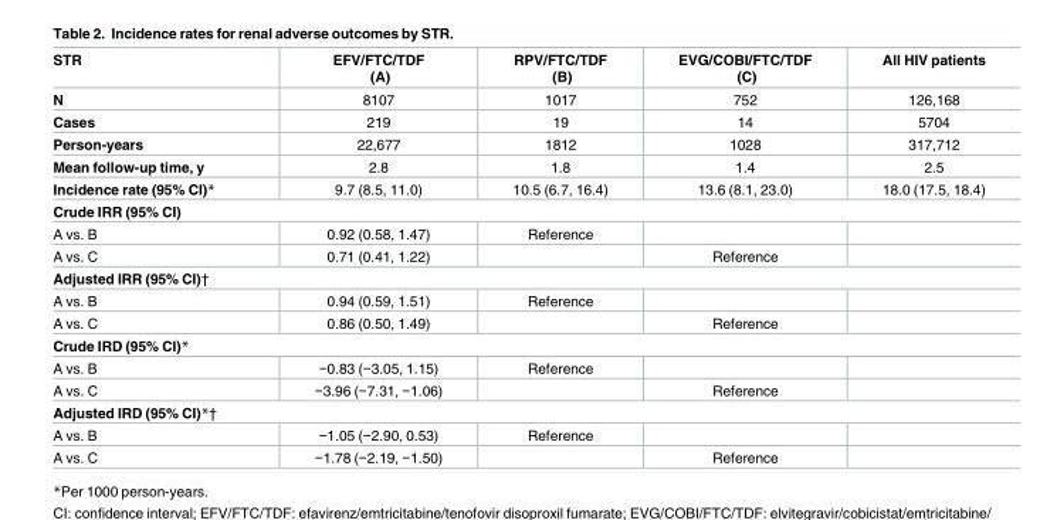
<table><thead><tr><td>STR</td><td>EFV/FTC/TDF (A)</td><td>RPV/FTC/TDF (B)</td><td>EVG/COBI/FTC/TDF (C)</td><td>All HIV patients</td></tr></thead><tbody><tr><td>N</td><td>8107</td><td>1017</td><td>752</td><td>126,168</td></tr><tr><td>Cases</td><td>219</td><td>19</td><td>14</td><td>5704</td></tr><tr><td>Person-years</td><td>22,677</td><td>1812</td><td>1028</td><td>317,712</td></tr><tr><td>Mean follow-up time, y</td><td>2.8</td><td>1.8</td><td>1.4</td><td>2.5</td></tr><tr><td>Incidence rate (95% CI)*</td><td>9.7 (8.5, 11.0)</td><td>10.5 (6.7, 16.4)</td><td>13.6 (8.1, 23.0)</td><td>18.0 (17.5, 18.4)</td></tr><tr><td colspan="5">Crude IRR (95% CI)</td></tr><tr><td>A vs. B</td><td>0.92 (0.58, 1.47)</td><td>Reference</td><td></td><td></td></tr><tr><td>A vs. C</td><td>0.71 (0.41, 1.22)</td><td></td><td>Reference</td><td></td></tr><tr><td colspan="5">Adjusted IRR (95% CI)†</td></tr><tr><td>A vs. B</td><td>0.94 (0.59, 1.51)</td><td>Reference</td><td></td><td></td></tr><tr><td>A vs. C</td><td>0.86 (0.50, 1.49)</td><td></td><td>Reference</td><td></td></tr><tr><td colspan="5">Crude IRD (95% CI)*</td></tr><tr><td>A vs. B</td><td>−0.83 (−3.05, 1.15)</td><td>Reference</td><td></td><td></td></tr><tr><td>A vs. C</td><td>−3.96 (−7.31, −1.06)</td><td></td><td>Reference</td><td></td></tr><tr><td colspan="5">Adjusted IRD (95% CI)*†</td></tr><tr><td>A vs. B</td><td>−1.05 (−2.90, 0.53)</td><td>Reference</td><td></td><td></td></tr><tr><td>A vs. C</td><td>−1.78 (−2.19, −1.50)</td><td></td><td>Reference</td><td></td></tr></tbody></table>